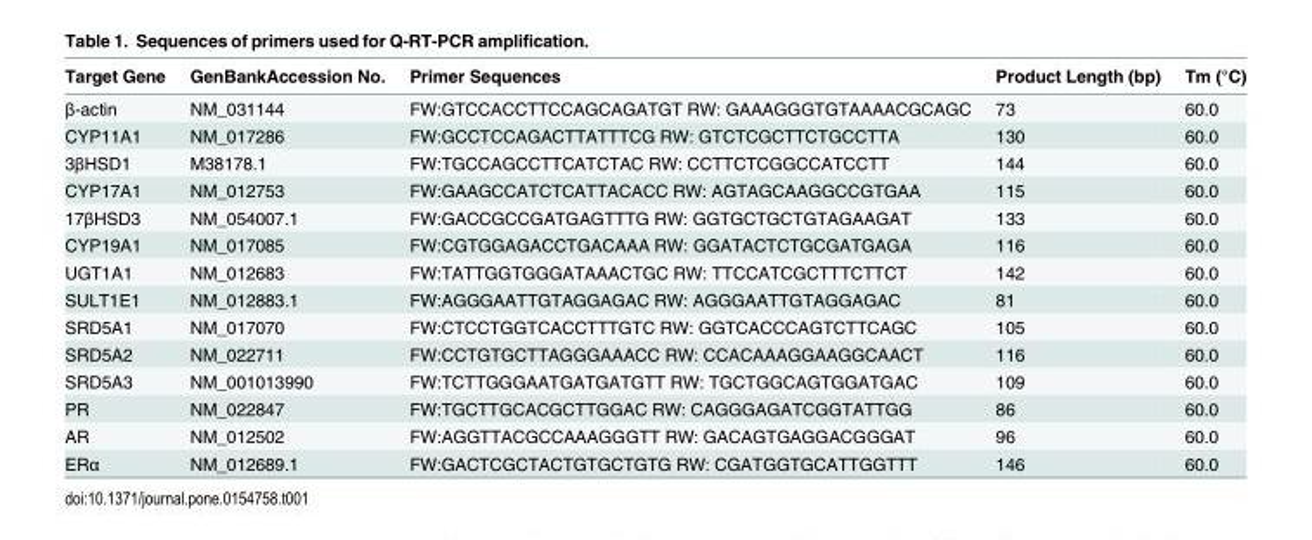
<table><thead><tr><td>Target Gene</td><td>GenBankAccession No.</td><td>Primer Sequences</td><td>Product Length (bp)</td><td>Tm (°C)</td></tr></thead><tbody><tr><td>β-actin</td><td>NM_031144</td><td>FW:GTCCACCTTCCAGCAGATGT RW: GAAAGGGTGTAAAACGCAGC</td><td>73</td><td>60.0</td></tr><tr><td>CYP11A1</td><td>NM_017286</td><td>FW:GCCTCCAGACTTATTTCG RW: GTCTCGCTTCTGCCTTA</td><td>130</td><td>60.0</td></tr><tr><td>3βHSD1</td><td>M38178.1</td><td>FW:TGCCAGCCTTCATCTAC RW: CCTTCTCGGCCATCCTT</td><td>144</td><td>60.0</td></tr><tr><td>CYP17A1</td><td>NM_012753</td><td>FW:GAAGCCATCTCATTACACC RW: AGTAGCAAGGCCGTGAA</td><td>115</td><td>60.0</td></tr><tr><td>17βHSD3</td><td>NM_054007.1</td><td>FW:GACCGCCGATGAGTTTG RW: GGTGCTGCTGTAGAAGAT</td><td>133</td><td>60.0</td></tr><tr><td>CYP19A1</td><td>NM_017085</td><td>FW:CGTGGAGACCTGACAAA RW: GGATACTCTGCGATGAGA</td><td>116</td><td>60.0</td></tr><tr><td>UGT1A1</td><td>NM_012683</td><td>FW:TATTGGTGGGATAAACTGC RW: TTCCATCGCTTTCTTCT</td><td>142</td><td>60.0</td></tr><tr><td>SULT1E1</td><td>NM_012883.1</td><td>FW:AGGGAATTGTAGGAGAC RW: AGGGAATTGTAGGAGAC</td><td>81</td><td>60.0</td></tr><tr><td>SRD5A1</td><td>NM_017070</td><td>FW:CTCCTGGTCACCTTTGTC RW: GGTCACCCAGTCTTCAGC</td><td>105</td><td>60.0</td></tr><tr><td>SRD5A2</td><td>NM_022711</td><td>FW:CCTGTGCTTAGGGAAACC RW: CCACAAAGGAAGGCAACT</td><td>116</td><td>60.0</td></tr><tr><td>SRD5A3</td><td>NM_001013990</td><td>FW:TCTTGGGAATGATGATGTT RW: TGCTGGCAGTGGATGAC</td><td>109</td><td>60.0</td></tr><tr><td>PR</td><td>NM_022847</td><td>FW:TGCTTGCACGCTTGGAC RW: CAGGGAGATCGGTATTGG</td><td>86</td><td>60.0</td></tr><tr><td>AR</td><td>NM_012502</td><td>FW:AGGTTACGCCAAAGGGTT RW: GACAGTGAGGACGGGAT</td><td>96</td><td>60.0</td></tr><tr><td>ERα</td><td>NM_012689.1</td><td>FW:GACTCGCTACTGTGCTGTG RW: CGATGGTGCATTGGTTT</td><td>146</td><td>60.0</td></tr></tbody></table>